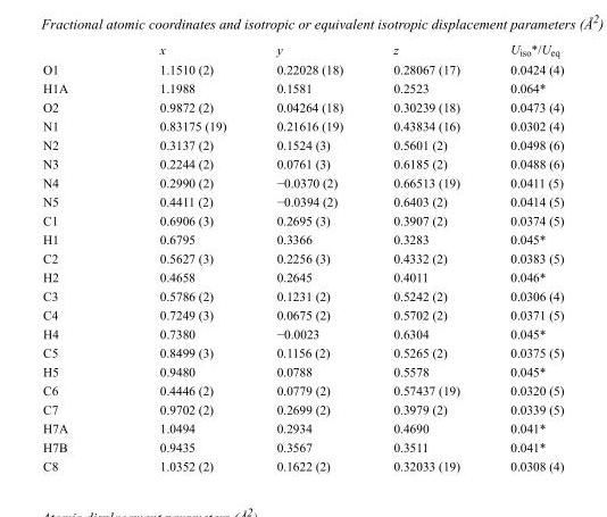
<table><thead><tr><td></td><td>x</td><td>y</td><td>z</td><td>U<sub>iso</sub>*/U<sub>eq</sub></td></tr></thead><tbody><tr><td>O1</td><td>1.1510 (2)</td><td>0.22028 (18)</td><td>0.28067 (17)</td><td>0.0424 (4)</td></tr><tr><td>H1A</td><td>1.1988</td><td>0.1581</td><td>0.2523</td><td>0.064*</td></tr><tr><td>O2</td><td>0.9872 (2)</td><td>0.04264 (18)</td><td>0.30239 (18)</td><td>0.0473 (4)</td></tr><tr><td>N1</td><td>0.83175 (19)</td><td>0.21616 (19)</td><td>0.43834 (16)</td><td>0.0302 (4)</td></tr><tr><td>N2</td><td>0.3137 (2)</td><td>0.1524 (3)</td><td>0.5601 (2)</td><td>0.0498 (6)</td></tr><tr><td>N3</td><td>0.2244 (2)</td><td>0.0761 (3)</td><td>0.6185 (2)</td><td>0.0488 (6)</td></tr><tr><td>N4</td><td>0.2990 (2)</td><td>−0.0370 (2)</td><td>0.66513 (19)</td><td>0.0411 (5)</td></tr><tr><td>N5</td><td>0.4411 (2)</td><td>−0.0394 (2)</td><td>0.6403 (2)</td><td>0.0414 (5)</td></tr><tr><td>C1</td><td>0.6906 (3)</td><td>0.2695 (3)</td><td>0.3907 (2)</td><td>0.0374 (5)</td></tr><tr><td>H1</td><td>0.6795</td><td>0.3366</td><td>0.3283</td><td>0.045*</td></tr><tr><td>C2</td><td>0.5627 (3)</td><td>0.2256 (3)</td><td>0.4332 (2)</td><td>0.0383 (5)</td></tr><tr><td>H2</td><td>0.4658</td><td>0.2645</td><td>0.4011</td><td>0.046*</td></tr><tr><td>C3</td><td>0.5786 (2)</td><td>0.1231 (2)</td><td>0.5242 (2)</td><td>0.0306 (4)</td></tr><tr><td>C4</td><td>0.7249 (3)</td><td>0.0675 (2)</td><td>0.5702 (2)</td><td>0.0371 (5)</td></tr><tr><td>H4</td><td>0.7380</td><td>−0.0023</td><td>0.6304</td><td>0.045*</td></tr><tr><td>C5</td><td>0.8499 (3)</td><td>0.1156 (2)</td><td>0.5265 (2)</td><td>0.0375 (5)</td></tr><tr><td>H5</td><td>0.9480</td><td>0.0788</td><td>0.5578</td><td>0.045*</td></tr><tr><td>C6</td><td>0.4446 (2)</td><td>0.0779 (2)</td><td>0.57437 (19)</td><td>0.0320 (5)</td></tr><tr><td>C7</td><td>0.9702 (2)</td><td>0.2699 (2)</td><td>0.3979 (2)</td><td>0.0339 (5)</td></tr><tr><td>H7A</td><td>1.0494</td><td>0.2934</td><td>0.4690</td><td>0.041*</td></tr><tr><td>H7B</td><td>0.9435</td><td>0.3567</td><td>0.3511</td><td>0.041*</td></tr><tr><td>C8</td><td>1.0352 (2)</td><td>0.1622 (2)</td><td>0.32033 (19)</td><td>0.0308 (4)</td></tr></tbody></table>